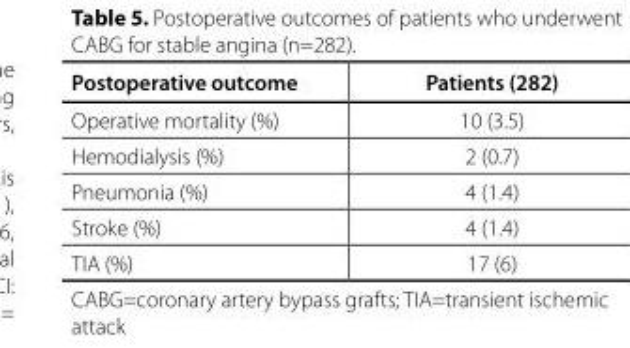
<table><thead><tr><td>Postoperative outcome</td><td>Patients (282)</td></tr></thead><tbody><tr><td>Operative mortality (%)</td><td>10 (3.5)</td></tr><tr><td>Hemodialysis (%)</td><td>2 (0.7)</td></tr><tr><td>Pneumonia (%)</td><td>4 (1.4)</td></tr><tr><td>Stroke (%)</td><td>4 (1.4)</td></tr><tr><td>TIA (%)</td><td>17 (6)</td></tr></tbody></table>